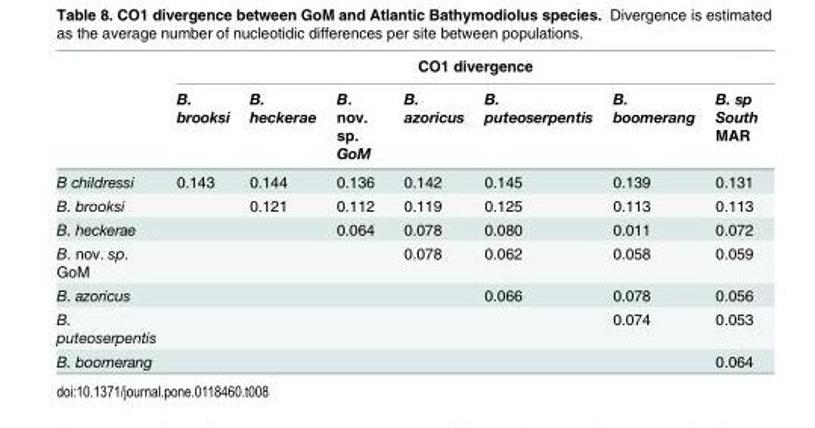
<table><thead><tr><td rowspan="2"></td><td colspan="7">CO1 divergence</td></tr><tr><td>B. brooksi</td><td>B. heckerae</td><td>B. nov. sp. GoM</td><td>B. azoricus</td><td>B. puteoserpentis</td><td>B. boomerang</td><td>B. sp South MAR</td></tr></thead><tbody><tr><td>B childressi</td><td>0.143</td><td>0.144</td><td>0.136</td><td>0.142</td><td>0.145</td><td>0.139</td><td>0.131</td></tr><tr><td>B. brooksi</td><td></td><td>0.121</td><td>0.112</td><td>0.119</td><td>0.125</td><td>0.113</td><td>0.113</td></tr><tr><td>B. heckerae</td><td></td><td></td><td>0.064</td><td>0.078</td><td>0.080</td><td>0.011</td><td>0.072</td></tr><tr><td>B. nov. sp. GoM</td><td></td><td></td><td></td><td>0.078</td><td>0.062</td><td>0.058</td><td>0.059</td></tr><tr><td>B. azoricus</td><td></td><td></td><td></td><td></td><td>0.066</td><td>0.078</td><td>0.056</td></tr><tr><td>B. puteoserpentis</td><td></td><td></td><td></td><td></td><td></td><td>0.074</td><td>0.053</td></tr><tr><td>B. boomerang</td><td></td><td></td><td></td><td></td><td></td><td></td><td>0.064</td></tr></tbody></table>